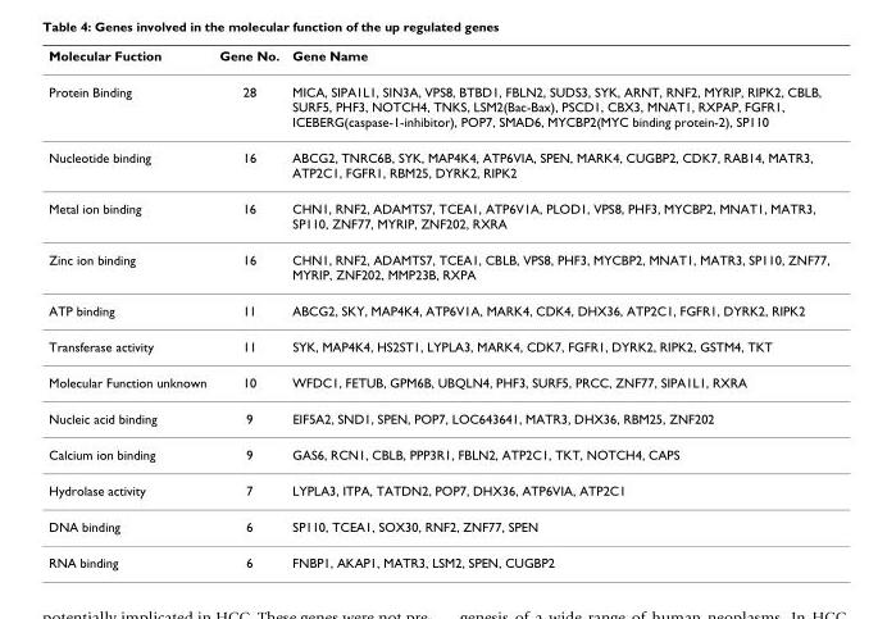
<table><thead><tr><td>Molecular Fuction</td><td>Gene No.</td><td>Gene Name</td></tr></thead><tbody><tr><td>Protein Binding</td><td>28</td><td>MICA, SIPA1L1, SIN3A, VPS8, BTBD1, FBLN2, SUDS3, SYK, ARNT, RNF2, MYRIP, RIPK2, CBLB, SURF5, PHF3, NOTCH4, TNKS, LSM2(Bac-Bax), PSCD1, CBX3, MNAT1, RXPAP, FGFR1, ICEBERG(caspase-1-inhibitor), POP7, SMAD6, MYCBP2(MYC binding protein-2), SP110</td></tr><tr><td>Nucleotide binding</td><td>16</td><td>ABCG2, TNRC6B, SYK, MAP4K4, ATP6VIA, SPEN, MARK4, CUGBP2, CDK7, RAB14, MATR3, ATP2C1, FGFR1, RBM25, DYRK2, RIPK2</td></tr><tr><td>Metal ion binding</td><td>16</td><td>CHN1, RNF2, ADAMTS7, TCEA1, ATP6V1A, PLOD1, VPS8, PHF3, MYCBP2, MNAT1, MATR3, SP110, ZNF77, MYRIP, ZNF202, RXRA</td></tr><tr><td>Zinc ion binding</td><td>16</td><td>CHN1, RNF2, ADAMTS7, TCEA1, CBLB, VPS8, PHF3, MYCBP2, MNAT1, MATR3, SP110, ZNF77, MYRIP, ZNF202, MMP23B, RXPA</td></tr><tr><td>ATP binding</td><td>11</td><td>ABCG2, SKY, MAP4K4, ATP6V1A, MARK4, CDK4, DHX36, ATP2C1, FGFR1, DYRK2, RIPK2</td></tr><tr><td>Transferase activity</td><td>11</td><td>SYK, MAP4K4, HS2ST1, LYPLA3, MARK4, CDK7, FGFR1, DYRK2, RIPK2, GSTM4, TKT</td></tr><tr><td>Molecular Function unknown</td><td>10</td><td>WFDC1, FETUB, GPM6B, UBQLN4, PHF3, SURF5, PRCC, ZNF77, SIPA1L1, RXRA</td></tr><tr><td>Nucleic acid binding</td><td>9</td><td>EIF5A2, SND1, SPEN, POP7, LOC643641, MATR3, DHX36, RBM25, ZNF202</td></tr><tr><td>Calcium ion binding</td><td>9</td><td>GAS6, RCN1, CBLB, PPP3R1, FBLN2, ATP2C1, TKT, NOTCH4, CAPS</td></tr><tr><td>Hydrolase activity</td><td>7</td><td>LYPLA3, ITPA, TATDN2, POP7, DHX36, ATP6VIA, ATP2C1</td></tr><tr><td>DNA binding</td><td>6</td><td>SP110, TCEA1, SOX30, RNF2, ZNF77, SPEN</td></tr><tr><td>RNA binding</td><td>6</td><td>FNBP1, AKAP1, MATR3, LSM2, SPEN, CUGBP2</td></tr></tbody></table>